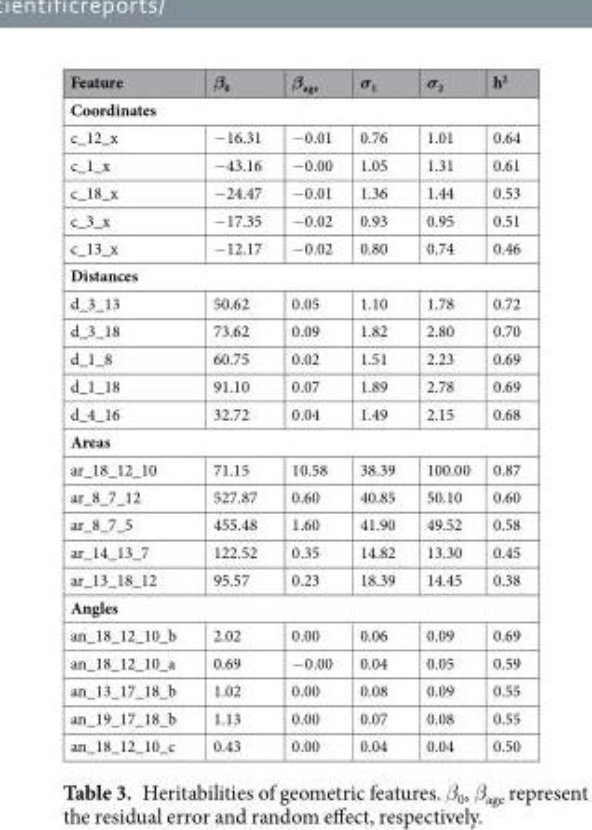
<table><thead><tr><td>Feature</td><td>β<sub>0</sub></td><td>β<sub>age</sub></td><td>σ<sub>1</sub></td><td>σ<sub>2</sub></td><td>h<sup>2</sup></td></tr></thead><tbody><tr><td colspan="6">Coordinates</td></tr><tr><td>c_12_x</td><td>−16.31</td><td>−0.01</td><td>0.76</td><td>1.01</td><td>0.64</td></tr><tr><td>c_1_x</td><td>−43.16</td><td>−0.00</td><td>1.05</td><td>1.31</td><td>0.61</td></tr><tr><td>c_18_x</td><td>−24.47</td><td>−0.01</td><td>1.36</td><td>1.44</td><td>0.53</td></tr><tr><td>c_3_x</td><td>−17.35</td><td>−0.02</td><td>0.93</td><td>0.95</td><td>0.51</td></tr><tr><td>c_13_x</td><td>−12.17</td><td>−0.02</td><td>0.80</td><td>0.74</td><td>0.46</td></tr><tr><td colspan="6">Distances</td></tr><tr><td>d_3_13</td><td>50.62</td><td>0.05</td><td>1.10</td><td>1.78</td><td>0.72</td></tr><tr><td>d_3_18</td><td>73.62</td><td>0.09</td><td>1.82</td><td>2.80</td><td>0.70</td></tr><tr><td>d_1_8</td><td>60.75</td><td>0.02</td><td>1.51</td><td>2.23</td><td>0.69</td></tr><tr><td>d_1_18</td><td>91.10</td><td>0.07</td><td>1.89</td><td>2.78</td><td>0.69</td></tr><tr><td>d_4_16</td><td>32.72</td><td>0.04</td><td>1.49</td><td>2.15</td><td>0.68</td></tr><tr><td colspan="6">Areas</td></tr><tr><td>ar_18_12_10</td><td>71.15</td><td>10.58</td><td>38.39</td><td>100.00</td><td>0.87</td></tr><tr><td>ar_8_7_12</td><td>527.87</td><td>0.60</td><td>40.85</td><td>50.10</td><td>0.60</td></tr><tr><td>ar_8_7_5</td><td>455.48</td><td>1.60</td><td>41.90</td><td>49.52</td><td>0.58</td></tr><tr><td>ar_14_13_7</td><td>122.52</td><td>0.35</td><td>14.82</td><td>13.30</td><td>0.45</td></tr><tr><td>ar_13_18_12</td><td>95.57</td><td>0.23</td><td>18.39</td><td>14.45</td><td>0.38</td></tr><tr><td colspan="6">Angles</td></tr><tr><td>an_18_12_10_b</td><td>2.02</td><td>0.00</td><td>0.06</td><td>0.09</td><td>0.69</td></tr><tr><td>an_18_12_10_a</td><td>0.69</td><td>−0.00</td><td>0.04</td><td>0.05</td><td>0.59</td></tr><tr><td>an_13_17_18_b</td><td>1.02</td><td>0.00</td><td>0.08</td><td>0.09</td><td>0.55</td></tr><tr><td>an_19_17_18_b</td><td>1.13</td><td>0.00</td><td>0.07</td><td>0.08</td><td>0.55</td></tr><tr><td>an_18_12_10_c</td><td>0.43</td><td>0.00</td><td>0.04</td><td>0.04</td><td>0.50</td></tr></tbody></table>